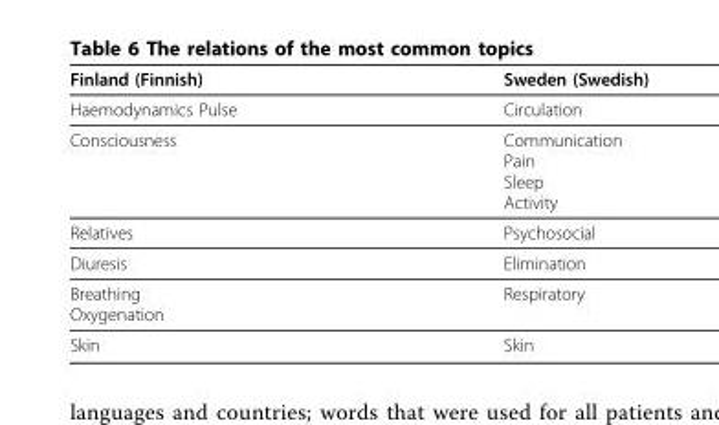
<table><thead><tr><td>Finland (Finnish)</td><td>Sweden (Swedish)</td></tr></thead><tbody><tr><td>Haemodynamics Pulse</td><td>Circulation</td></tr><tr><td>Consciousness</td><td>Communication Pain Sleep Activity</td></tr><tr><td>Relatives</td><td>Psychosocial</td></tr><tr><td>Diuresis</td><td>Elimination</td></tr><tr><td>Breathing Oxygenation</td><td>Respiratory</td></tr><tr><td>Skin</td><td>Skin</td></tr></tbody></table>